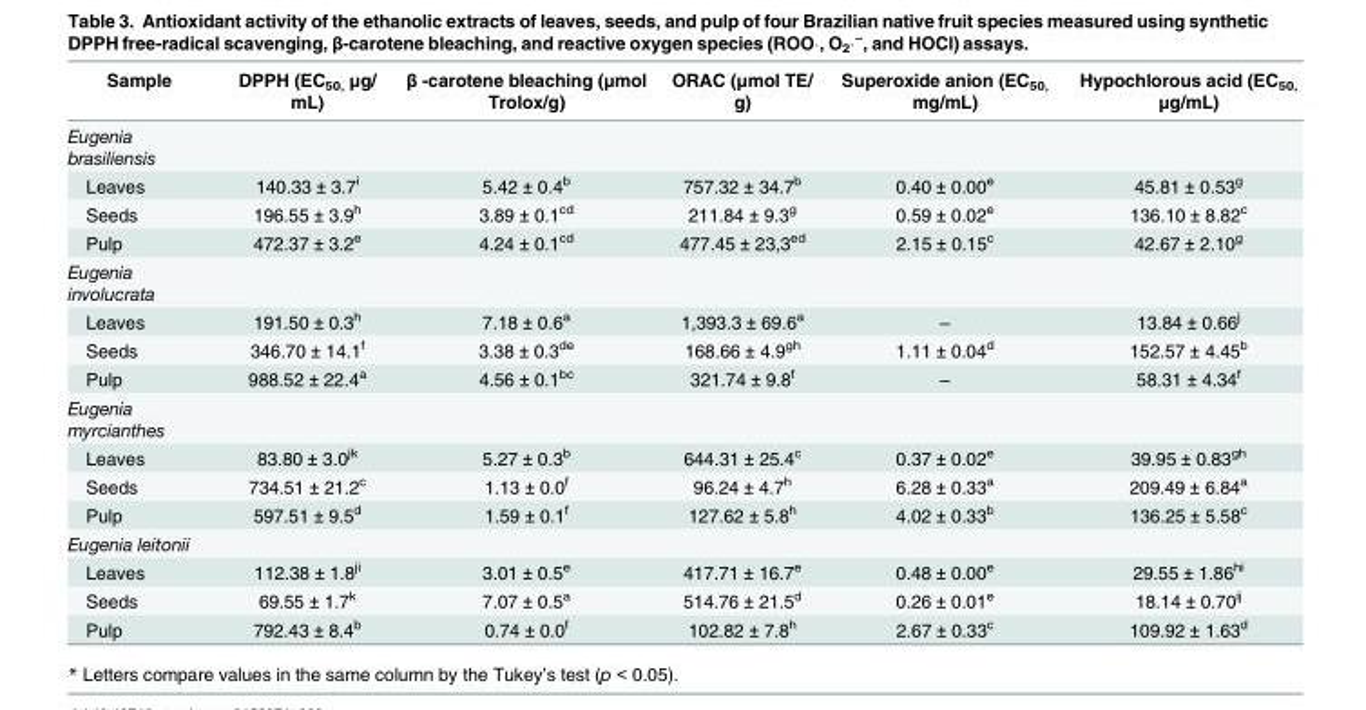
<table><thead><tr><td>Sample</td><td>DPPH (EC<sub>50,</sub> μg/ mL)</td><td>β -carotene bleaching (μmol Trolox/g)</td><td>ORAC (μmol TE/ g)</td><td>Superoxide anion (EC<sub>50,</sub> mg/mL)</td><td>Hypochlorous acid (EC<sub>50,</sub> μg/mL)</td></tr></thead><tbody><tr><td colspan="6">Eugenia brasiliensis</td></tr><tr><td>Leaves</td><td>140.33 ± 3.7<sup>i</sup></td><td>5.42 ± 0.4<sup>b</sup></td><td>757.32 ± 34.7<sup>b</sup></td><td>0.40 ± 0.00<sup>e</sup></td><td>45.81 ± 0.53<sup>g</sup></td></tr><tr><td>Seeds</td><td>196.55 ± 3.9<sup>h</sup></td><td>3.89 ± 0.1<sup>cd</sup></td><td>211.84 ± 9.3<sup>g</sup></td><td>0.59 ± 0.02<sup>e</sup></td><td>136.10 ± 8.82<sup>c</sup></td></tr><tr><td>Pulp</td><td>472.37 ± 3.2<sup>e</sup></td><td>4.24 ± 0.1<sup>cd</sup></td><td>477.45 ± 23,3<sup>ed</sup></td><td>2.15 ± 0.15<sup>c</sup></td><td>42.67 ± 2.10<sup>g</sup></td></tr><tr><td colspan="6">Eugenia involucrata</td></tr><tr><td>Leaves</td><td>191.50 ± 0.3<sup>h</sup></td><td>7.18 ± 0.6<sup>a</sup></td><td>1,393.3 ± 69.6<sup>a</sup></td><td>–</td><td>13.84 ± 0.66<sup>j</sup></td></tr><tr><td>Seeds</td><td>346.70 ± 14.1<sup>f</sup></td><td>3.38 ± 0.3<sup>de</sup></td><td>168.66 ± 4.9<sup>gh</sup></td><td>1.11 ± 0.04<sup>d</sup></td><td>152.57 ± 4.45<sup>b</sup></td></tr><tr><td>Pulp</td><td>988.52 ± 22.4<sup>a</sup></td><td>4.56 ± 0.1<sup>bc</sup></td><td>321.74 ± 9.8<sup>f</sup></td><td>–</td><td>58.31 ± 4.34<sup>f</sup></td></tr><tr><td colspan="6">Eugenia myrcianthes</td></tr><tr><td>Leaves</td><td>83.80 ± 3.0<sup>jk</sup></td><td>5.27 ± 0.3<sup>b</sup></td><td>644.31 ± 25.4<sup>c</sup></td><td>0.37 ± 0.02<sup>e</sup></td><td>39.95 ± 0.83<sup>gh</sup></td></tr><tr><td>Seeds</td><td>734.51 ± 21.2<sup>c</sup></td><td>1.13 ± 0.0<sup>f</sup></td><td>96.24 ± 4.7<sup>h</sup></td><td>6.28 ± 0.33<sup>a</sup></td><td>209.49 ± 6.84<sup>a</sup></td></tr><tr><td>Pulp</td><td>597.51 ± 9.5<sup>d</sup></td><td>1.59 ± 0.1<sup>f</sup></td><td>127.62 ± 5.8<sup>h</sup></td><td>4.02 ± 0.33<sup>b</sup></td><td>136.25 ± 5.58<sup>c</sup></td></tr><tr><td colspan="6">Eugenia leitonii</td></tr><tr><td>Leaves</td><td>112.38 ± 1.8<sup>ji</sup></td><td>3.01 ± 0.5<sup>e</sup></td><td>417.71 ± 16.7<sup>e</sup></td><td>0.48 ± 0.00<sup>e</sup></td><td>29.55 ± 1.86<sup>hi</sup></td></tr><tr><td>Seeds</td><td>69.55 ± 1.7<sup>k</sup></td><td>7.07 ± 0.5<sup>a</sup></td><td>514.76 ± 21.5<sup>d</sup></td><td>0.26 ± 0.01<sup>e</sup></td><td>18.14 ± 0.70<sup>ij</sup></td></tr><tr><td>Pulp</td><td>792.43 ± 8.4<sup>b</sup></td><td>0.74 ± 0.0<sup>f</sup></td><td>102.82 ± 7.8<sup>h</sup></td><td>2.67 ± 0.33<sup>c</sup></td><td>109.92 ± 1.63<sup>d</sup></td></tr></tbody></table>